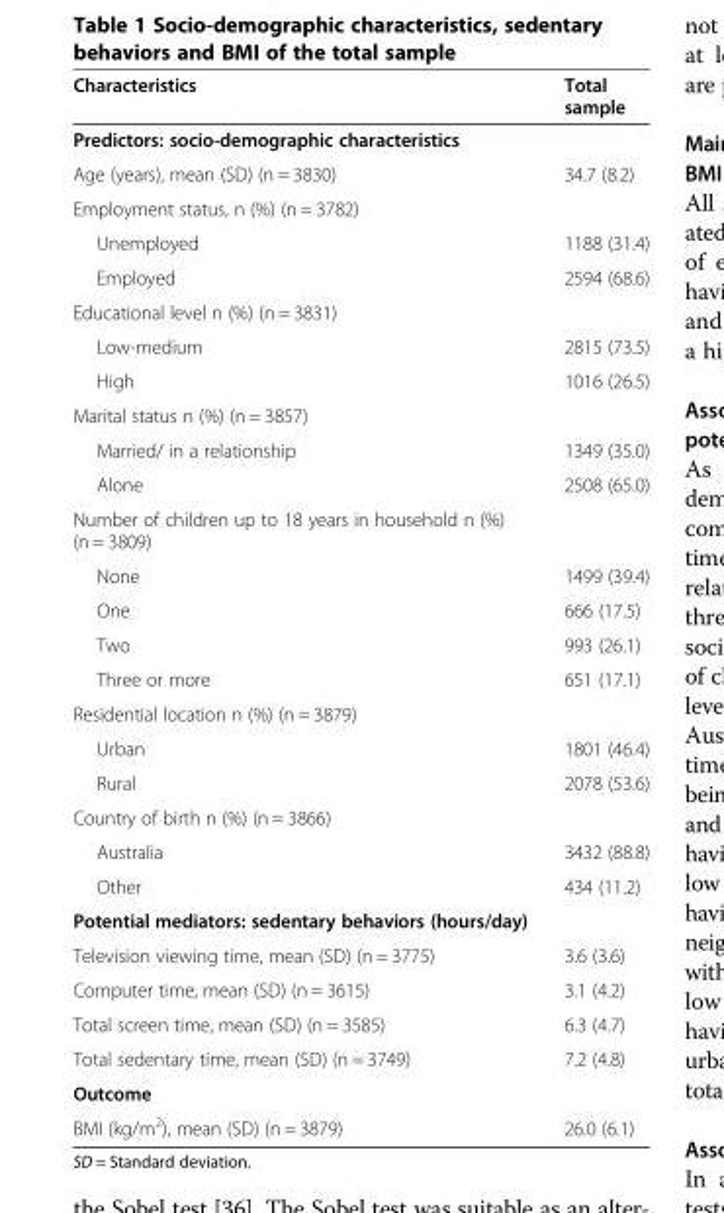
<table><thead><tr><td>Characteristics</td><td>Total sample</td></tr></thead><tbody><tr><td colspan="2">Predictors: socio-demographic characteristics</td></tr><tr><td>Age (years), mean (SD) (n = 3830)</td><td>34.7 (8.2)</td></tr><tr><td colspan="2">Employment status, n (%) (n = 3782)</td></tr><tr><td>Unemployed</td><td>1188 (31.4)</td></tr><tr><td>Employed</td><td>2594 (68.6)</td></tr><tr><td colspan="2">Educational level n (%) (n = 3831)</td></tr><tr><td>Low-medium</td><td>2815 (73.5)</td></tr><tr><td>High</td><td>1016 (26.5)</td></tr><tr><td colspan="2">Marital status n (%) (n = 3857)</td></tr><tr><td>Married/ in a relationship</td><td>1349 (35.0)</td></tr><tr><td>Alone</td><td>2508 (65.0)</td></tr><tr><td colspan="2">Number of children up to 18 years in household n (%) (n = 3809)</td></tr><tr><td>None</td><td>1499 (39.4)</td></tr><tr><td>One</td><td>666 (17.5)</td></tr><tr><td>Two</td><td>993 (26.1)</td></tr><tr><td>Three or more</td><td>651 (17.1)</td></tr><tr><td colspan="2">Residential location n (%) (n = 3879)</td></tr><tr><td>Urban</td><td>1801 (46.4)</td></tr><tr><td>Rural</td><td>2078 (53.6)</td></tr><tr><td colspan="2">Country of birth n (%) (n = 3866)</td></tr><tr><td>Australia</td><td>3432 (88.8)</td></tr><tr><td>Other</td><td>434 (11.2)</td></tr><tr><td colspan="2">Potential mediators: sedentary behaviors (hours/day)</td></tr><tr><td>Television viewing time, mean (SD) (n = 3775)</td><td>3.6 (3.6)</td></tr><tr><td>Computer time, mean (SD) (n = 3615)</td><td>3.1 (4.2)</td></tr><tr><td>Total screen time, mean (SD) (n = 3585)</td><td>6.3 (4.7)</td></tr><tr><td>Total sedentary time, mean (SD) (n = 3749)</td><td>7.2 (4.8)</td></tr><tr><td colspan="2">Outcome</td></tr><tr><td>BMI (kg/m<sup>2</sup>), mean (SD) (n = 3879)</td><td>26.0 (6.1)</td></tr></tbody></table>